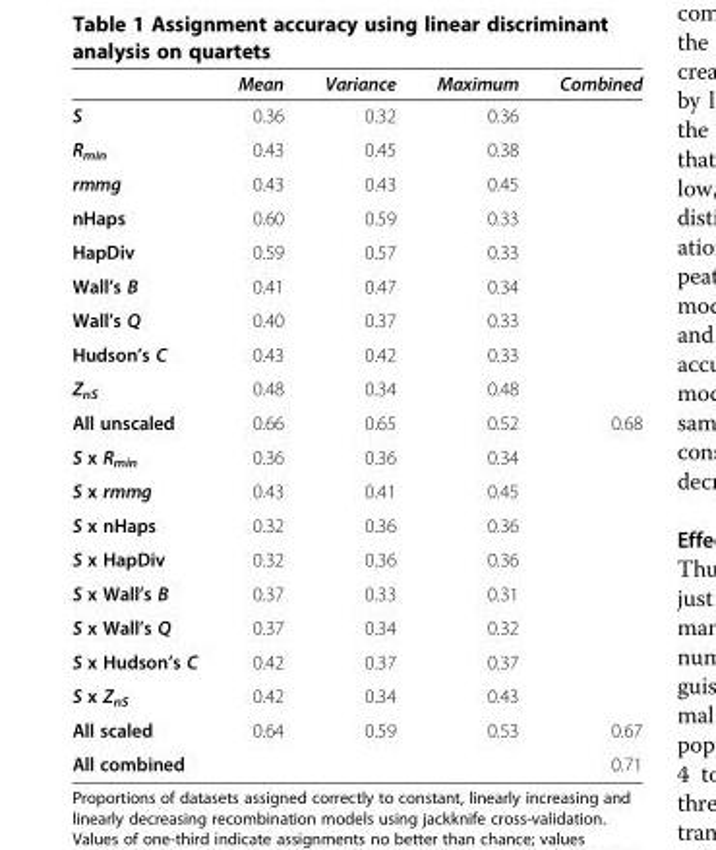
<table><thead><tr><td></td><td>Mean</td><td>Variance</td><td>Maximum</td><td>Combined</td></tr></thead><tbody><tr><td>S</td><td>0.36</td><td>0.32</td><td>0.36</td><td></td></tr><tr><td>R<sub>min</sub></td><td>0.43</td><td>0.45</td><td>0.38</td><td></td></tr><tr><td>rmmg</td><td>0.43</td><td>0.43</td><td>0.45</td><td></td></tr><tr><td>nHaps</td><td>0.60</td><td>0.59</td><td>0.33</td><td></td></tr><tr><td>HapDiv</td><td>0.59</td><td>0.57</td><td>0.33</td><td></td></tr><tr><td>Wall’s B</td><td>0.41</td><td>0.47</td><td>0.34</td><td></td></tr><tr><td>Wall’s Q</td><td>0.40</td><td>0.37</td><td>0.33</td><td></td></tr><tr><td>Hudson’s C</td><td>0.43</td><td>0.42</td><td>0.33</td><td></td></tr><tr><td>Z<sub>nS</sub></td><td>0.48</td><td>0.34</td><td>0.48</td><td></td></tr><tr><td>All unscaled</td><td>0.66</td><td>0.65</td><td>0.52</td><td>0.68</td></tr><tr><td>S x R<sub>min</sub></td><td>0.36</td><td>0.36</td><td>0.34</td><td></td></tr><tr><td>S x rmmg</td><td>0.43</td><td>0.41</td><td>0.45</td><td></td></tr><tr><td>S x nHaps</td><td>0.32</td><td>0.36</td><td>0.36</td><td></td></tr><tr><td>S x HapDiv</td><td>0.32</td><td>0.36</td><td>0.36</td><td></td></tr><tr><td>S x Wall’s B</td><td>0.37</td><td>0.33</td><td>0.31</td><td></td></tr><tr><td>S x Wall’s Q</td><td>0.37</td><td>0.34</td><td>0.32</td><td></td></tr><tr><td>S x Hudson’s C</td><td>0.42</td><td>0.37</td><td>0.37</td><td></td></tr><tr><td>S x Z<sub>nS</sub></td><td>0.42</td><td>0.34</td><td>0.43</td><td></td></tr><tr><td>All scaled</td><td>0.64</td><td>0.59</td><td>0.53</td><td>0.67</td></tr><tr><td>All combined</td><td></td><td></td><td></td><td>0.71</td></tr></tbody></table>